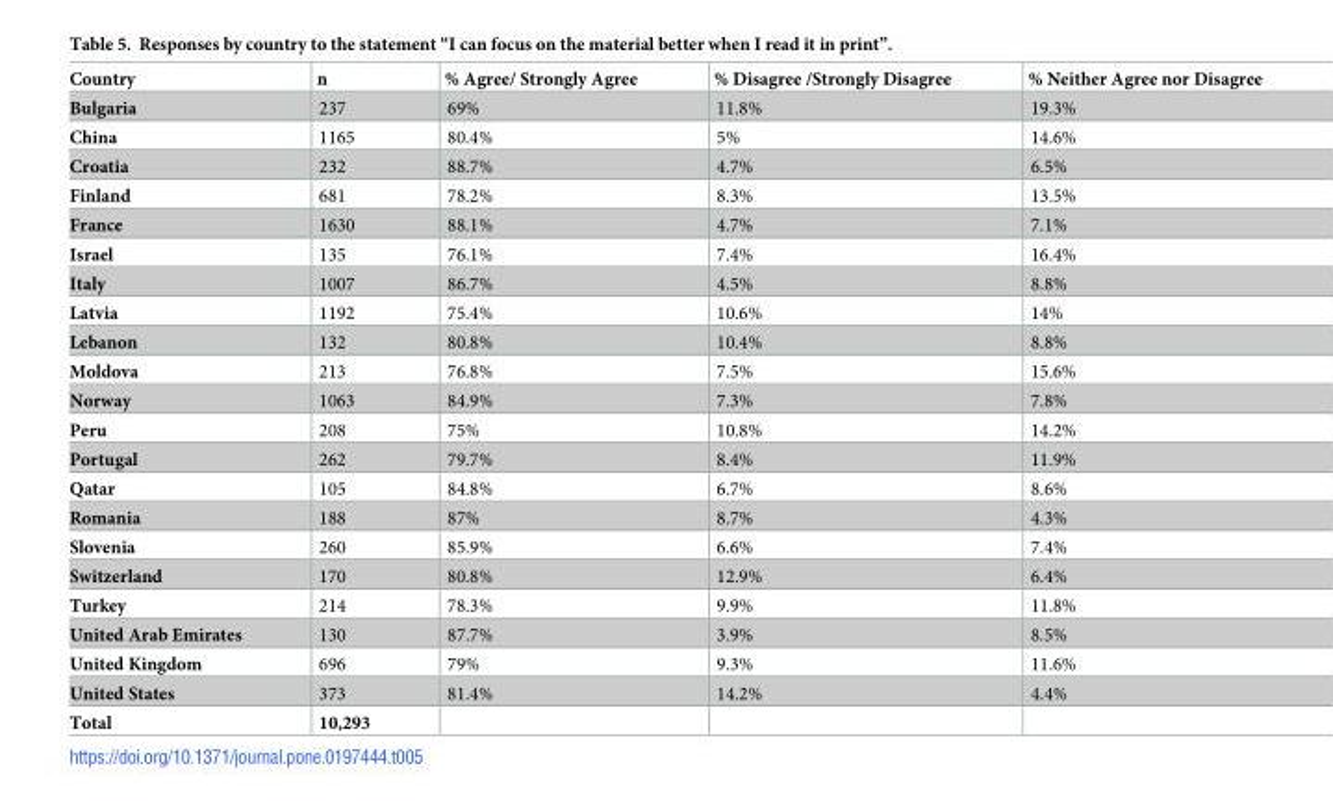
<table><thead><tr><td>Country</td><td>n</td><td>% Agree/ Strongly Agree</td><td>% Disagree /Strongly Disagree</td><td>% Neither Agree nor Disagree</td></tr></thead><tbody><tr><td>Bulgaria</td><td>237</td><td>69%</td><td>11.8%</td><td>19.3%</td></tr><tr><td>China</td><td>1165</td><td>80.4%</td><td>5%</td><td>14.6%</td></tr><tr><td>Croatia</td><td>232</td><td>88.7%</td><td>4.7%</td><td>6.5%</td></tr><tr><td>Finland</td><td>681</td><td>78.2%</td><td>8.3%</td><td>13.5%</td></tr><tr><td>France</td><td>1630</td><td>88.1%</td><td>4.7%</td><td>7.1%</td></tr><tr><td>Israel</td><td>135</td><td>76.1%</td><td>7.4%</td><td>16.4%</td></tr><tr><td>Italy</td><td>1007</td><td>86.7%</td><td>4.5%</td><td>8.8%</td></tr><tr><td>Latvia</td><td>1192</td><td>75.4%</td><td>10.6%</td><td>14%</td></tr><tr><td>Lebanon</td><td>132</td><td>80.8%</td><td>10.4%</td><td>8.8%</td></tr><tr><td>Moldova</td><td>213</td><td>76.8%</td><td>7.5%</td><td>15.6%</td></tr><tr><td>Norway</td><td>1063</td><td>84.9%</td><td>7.3%</td><td>7.8%</td></tr><tr><td>Peru</td><td>208</td><td>75%</td><td>10.8%</td><td>14.2%</td></tr><tr><td>Portugal</td><td>262</td><td>79.7%</td><td>8.4%</td><td>11.9%</td></tr><tr><td>Qatar</td><td>105</td><td>84.8%</td><td>6.7%</td><td>8.6%</td></tr><tr><td>Romania</td><td>188</td><td>87%</td><td>8.7%</td><td>4.3%</td></tr><tr><td>Slovenia</td><td>260</td><td>85.9%</td><td>6.6%</td><td>7.4%</td></tr><tr><td>Switzerland</td><td>170</td><td>80.8%</td><td>12.9%</td><td>6.4%</td></tr><tr><td>Turkey</td><td>214</td><td>78.3%</td><td>9.9%</td><td>11.8%</td></tr><tr><td>United Arab Emirates</td><td>130</td><td>87.7%</td><td>3.9%</td><td>8.5%</td></tr><tr><td>United Kingdom</td><td>696</td><td>79%</td><td>9.3%</td><td>11.6%</td></tr><tr><td>United States</td><td>373</td><td>81.4%</td><td>14.2%</td><td>4.4%</td></tr><tr><td>Total</td><td>10,293</td><td></td><td></td><td></td></tr></tbody></table>